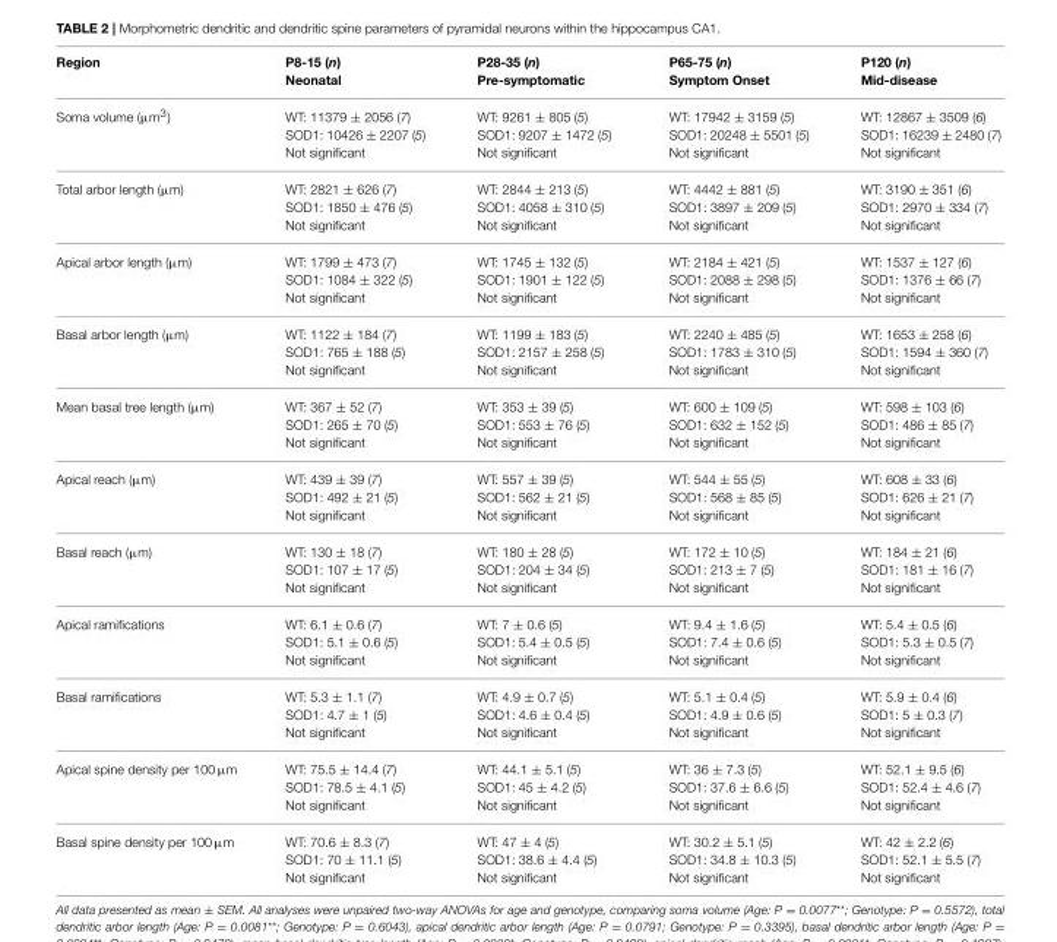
<table><thead><tr><td>Region</td><td>P8-15 (n) Neonatal</td><td>P28-35 (n) Pre-symptomatic</td><td>P65-75 (n) Symptom Onset</td><td>P120 (n) Mid-disease</td></tr></thead><tbody><tr><td>Soma volume (µm<sup>3</sup>)</td><td>WT: 11379 ± 2056 (7) SOD1: 10426 ± 2207 (5) Not significant</td><td>WT: 9261 ± 805 (5) SOD1: 9207 ± 1472 (5) Not significant</td><td>WT: 17942 ± 3159 (5) SOD1: 20248 ± 5501 (5) Not significant</td><td>WT: 12867 ± 3509 (6) SOD1: 16239 ± 2480 (7) Not significant</td></tr><tr><td>Total arbor length (µm)</td><td>WT: 2821 ± 626 (7) SOD1: 1850 ± 476 (5) Not significant</td><td>WT: 2844 ± 213 (5) SOD1: 4058 ± 310 (5) Not significant</td><td>WT: 4442 ± 881 (5) SOD1: 3897 ± 209 (5) Not significant</td><td>WT: 3190 ± 351 (6) SOD1: 2970 ± 334 (7) Not significant</td></tr><tr><td>Apical arbor length (µm)</td><td>WT: 1799 ± 473 (7) SOD1: 1084 ± 322 (5) Not significant</td><td>WT: 1745 ± 132 (5) SOD1: 1901 ± 122 (5) Not significant</td><td>WT: 2184 ± 421 (5) SOD1: 2088 ± 298 (5) Not significant</td><td>WT: 1537 ± 127 (6) SOD1: 1376 ± 66 (7) Not significant</td></tr><tr><td>Basal arbor length (µm)</td><td>WT: 1122 ± 184 (7) SOD1: 765 ± 188 (5) Not significant</td><td>WT: 1199 ± 183 (5) SOD1: 2157 ± 258 (5) Not significant</td><td>WT: 2240 ± 485 (5) SOD1: 1783 ± 310 (5) Not significant</td><td>WT: 1653 ± 258 (6) SOD1: 1594 ± 360 (7) Not significant</td></tr><tr><td>Mean basal tree length (µm)</td><td>WT: 367 ± 52 (7) SOD1: 265 ± 70 (5) Not significant</td><td>WT: 353 ± 39 (5) SOD1: 553 ± 76 (5) Not significant</td><td>WT: 600 ± 109 (5) SOD1: 632 ± 152 (5) Not significant</td><td>WT: 598 ± 103 (6) SOD1: 486 ± 85 (7) Not significant</td></tr><tr><td>Apical reach (µm)</td><td>WT: 439 ± 39 (7) SOD1: 492 ± 21 (5) Not significant</td><td>WT: 557 ± 39 (5) SOD1: 562 ± 21 (5) Not significant</td><td>WT: 544 ± 55 (5) SOD1: 568 ± 85 (5) Not significant</td><td>WT: 608 ± 33 (6) SOD1: 626 ± 21 (7) Not significant</td></tr><tr><td>Basal reach (µm)</td><td>WT: 130 ± 18 (7) SOD1: 107 ± 17 (5) Not significant</td><td>WT: 180 ± 28 (5) SOD1: 204 ± 34 (5) Not significant</td><td>WT: 172 ± 10 (5) SOD1: 213 ± 7 (5) Not significant</td><td>WT: 184 ± 21 (6) SOD1: 181 ± 16 (7) Not significant</td></tr><tr><td>Apical ramifications</td><td>WT: 6.1 ± 0.6 (7) SOD1: 5.1 ± 0.6 (5) Not significant</td><td>WT: 7 ± 0.6 (5) SOD1: 5.4 ± 0.5 (5) Not significant</td><td>WT: 9.4 ± 1.6 (5) SOD1: 7.4 ± 0.6 (5) Not significant</td><td>WT: 5.4 ± 0.5 (6) SOD1: 5.3 ± 0.5 (7) Not significant</td></tr><tr><td>Basal ramifications</td><td>WT: 5.3 ± 1.1 (7) SOD1: 4.7 ± 1 (5) Not significant</td><td>WT: 4.9 ± 0.7 (5) SOD1: 4.6 ± 0.4 (5) Not significant</td><td>WT: 5.1 ± 0.4 (5) SOD1: 4.9 ± 0.6 (5) Not significant</td><td>WT: 5.9 ± 0.4 (6) SOD1: 5 ± 0.3 (7) Not significant</td></tr><tr><td>Apical spine density per 100 µm</td><td>WT: 75.5 ± 14.4 (7) SOD1: 78.5 ± 4.1 (5) Not significant</td><td>WT: 44.1 ± 5.1 (5) SOD1: 45 ± 4.2 (5) Not significant</td><td>WT: 36 ± 7.3 (5) SOD1: 37.6 ± 6.6 (5) Not significant</td><td>WT: 52.1 ± 9.5 (6) SOD1: 52.4 ± 4.6 (7) Not significant</td></tr><tr><td>Basal spine density per 100 µm</td><td>WT: 70.6 ± 8.3 (7) SOD1: 70 ± 11.1 (5) Not significant</td><td>WT: 47 ± 4 (5) SOD1: 38.6 ± 4.4 (5) Not significant</td><td>WT: 30.2 ± 5.1 (5) SOD1: 34.8 ± 10.3 (5) Not significant</td><td>WT: 42 ± 2.2 (6) SOD1: 52.1 ± 5.5 (7) Not significant</td></tr></tbody></table>